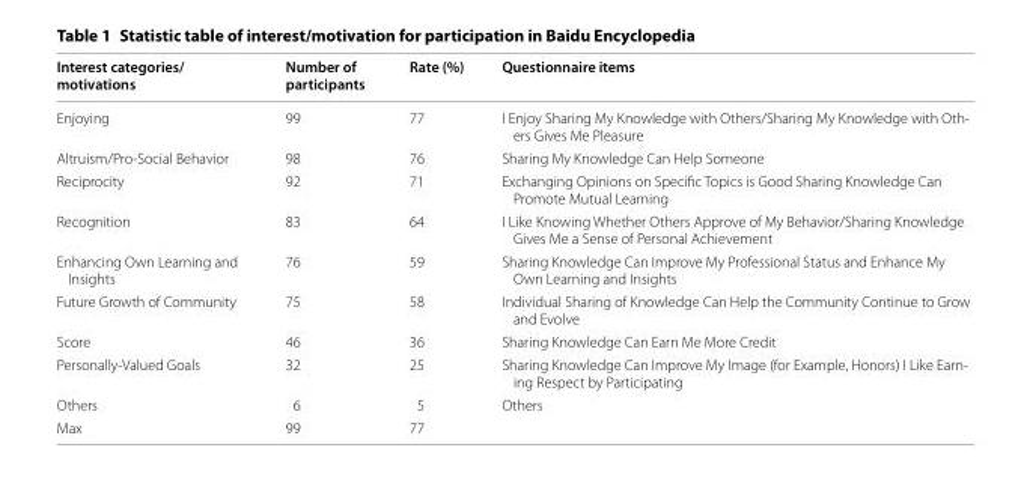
<table><thead><tr><td>Interest categories/ motivations</td><td>Number of participants</td><td>Rate (%)</td><td>Questionnaire items</td></tr></thead><tbody><tr><td>Enjoying</td><td>99</td><td>77</td><td>I Enjoy Sharing My Knowledge with Others/Sharing My Knowledge with Oth‑ ers Gives Me Pleasure</td></tr><tr><td>Altruism/Pro‑Social Behavior</td><td>98</td><td>76</td><td>Sharing My Knowledge Can Help Someone</td></tr><tr><td>Reciprocity</td><td>92</td><td>71</td><td>Exchanging Opinions on Specific Topics is Good Sharing Knowledge Can Promote Mutual Learning</td></tr><tr><td>Recognition</td><td>83</td><td>64</td><td>I Like Knowing Whether Others Approve of My Behavior/Sharing Knowledge Gives Me a Sense of Personal Achievement</td></tr><tr><td>Enhancing Own Learning and Insights</td><td>76</td><td>59</td><td>Sharing Knowledge Can Improve My Professional Status and Enhance My Own Learning and Insights</td></tr><tr><td>Future Growth of Community</td><td>75</td><td>58</td><td>Individual Sharing of Knowledge Can Help the Community Continue to Grow and Evolve</td></tr><tr><td>Score</td><td>46</td><td>36</td><td>Sharing Knowledge Can Earn Me More Credit</td></tr><tr><td>Personally‑Valued Goals</td><td>32</td><td>25</td><td>Sharing Knowledge Can Improve My Image (for Example, Honors) I Like Earn‑ ing Respect by Participating</td></tr><tr><td>Others</td><td>6</td><td>5</td><td>Others</td></tr><tr><td>Max</td><td>99</td><td>77</td><td></td></tr></tbody></table>